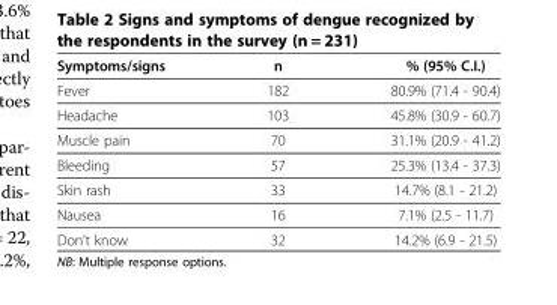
<table><thead><tr><td>Symptoms/signs</td><td>n</td><td>% (95% C.I.)</td></tr></thead><tbody><tr><td>Fever</td><td>182</td><td>80.9% (71.4 - 90.4)</td></tr><tr><td>Headache</td><td>103</td><td>45.8% (30.9 - 60.7)</td></tr><tr><td>Muscle pain</td><td>70</td><td>31.1% (20.9 - 41.2)</td></tr><tr><td>Bleeding</td><td>57</td><td>25.3% (13.4 - 37.3)</td></tr><tr><td>Skin rash</td><td>33</td><td>14.7% (8.1 - 21.2)</td></tr><tr><td>Nausea</td><td>16</td><td>7.1% (2.5 - 11.7)</td></tr><tr><td>Don’t know</td><td>32</td><td>14.2% (6.9 - 21.5)</td></tr></tbody></table>